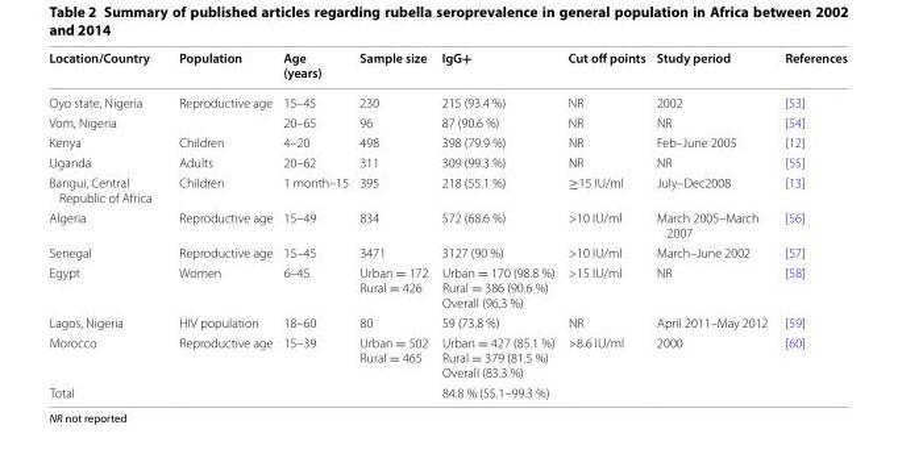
<table><thead><tr><td>Location/Country</td><td>Population</td><td>Age (years)</td><td>Sample size</td><td>IgG+</td><td>Cut off points</td><td>Study period</td><td>References</td></tr></thead><tbody><tr><td>Oyo state, Nigeria</td><td>Reproductive age</td><td>15–45</td><td>230</td><td>215 (93.4 %)</td><td>NR</td><td>2002</td><td>[53]</td></tr><tr><td>Vom, Nigeria</td><td></td><td>20–65</td><td>96</td><td>87 (90.6 %)</td><td>NR</td><td>NR</td><td>[54]</td></tr><tr><td>Kenya</td><td>Children</td><td>4–20</td><td>498</td><td>398 (79.9 %)</td><td>NR</td><td>Feb–June 2005</td><td>[12]</td></tr><tr><td>Uganda</td><td>Adults</td><td>20–62</td><td>311</td><td>309 (99.3 %)</td><td>NR</td><td>NR</td><td>[55]</td></tr><tr><td>Bangui, Central Republic of Africa</td><td>Children</td><td>1 month–15</td><td>395</td><td>218 (55.1 %)</td><td>≥15 IU/ml</td><td>July–Dec2008</td><td>[13]</td></tr><tr><td>Algeria</td><td>Reproductive age</td><td>15–49</td><td>834</td><td>572 (68.6 %)</td><td>&gt;10 IU/ml</td><td>March 2005–March 2007</td><td>[56]</td></tr><tr><td>Senegal</td><td>Reproductive age</td><td>15–45</td><td>3471</td><td>3127 (90 %)</td><td>&gt;10 IU/ml</td><td>March–June 2002</td><td>[57]</td></tr><tr><td>Egypt</td><td>Women</td><td>6–45</td><td>Urban = 172 Rural = 426</td><td>Urban = 170 (98.8 %) Rural = 386 (90.6 %) Overall (96.3 %)</td><td>&gt;15 IU/ml</td><td>NR</td><td>[58]</td></tr><tr><td>Lagos, Nigeria</td><td>HIV population</td><td>18–60</td><td>80</td><td>59 (73.8 %)</td><td>NR</td><td>April 2011–May 2012</td><td>[59]</td></tr><tr><td>Morocco</td><td>Reproductive age</td><td>15–39</td><td>Urban = 502 Rural = 465</td><td>Urban = 427 (85.1 %) Rural = 379 (81.5 %) Overall (83.3 %)</td><td>&gt;8.6 IU/ml</td><td>2000</td><td>[60]</td></tr><tr><td>Total</td><td></td><td></td><td></td><td>84.8 % (55.1–99.3 %)</td><td></td><td></td><td></td></tr></tbody></table>